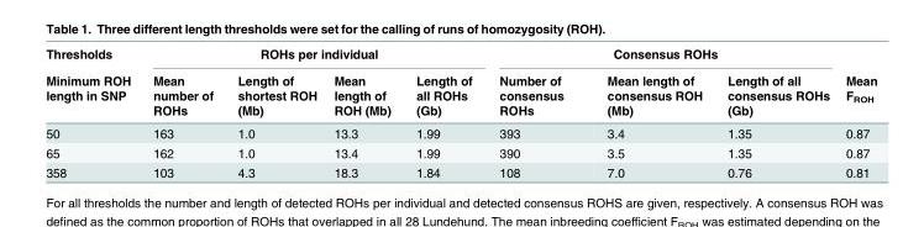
<table><thead><tr><td rowspan="2">Thresholds Minimum ROH length in SNP</td><td colspan="4">ROHs per individual</td><td colspan="3">Consensus ROHs</td><td rowspan="2">Mean F<sub>ROH</sub></td></tr><tr><td>Mean number of ROHs</td><td>Length of shortest ROH (Mb)</td><td>Mean length of ROH (Mb)</td><td>Length of all ROHs (Gb)</td><td>Number of consensus ROHs</td><td>Mean length of consensus ROH (Mb)</td><td>Length of all consensus ROHs (Gb)</td></tr></thead><tbody><tr><td>50</td><td>163</td><td>1.0</td><td>13.3</td><td>1.99</td><td>393</td><td>3.4</td><td>1.35</td><td>0.87</td></tr><tr><td>65</td><td>162</td><td>1.0</td><td>13.4</td><td>1.99</td><td>390</td><td>3.5</td><td>1.35</td><td>0.87</td></tr><tr><td>358</td><td>103</td><td>4.3</td><td>18.3</td><td>1.84</td><td>108</td><td>7.0</td><td>0.76</td><td>0.81</td></tr></tbody></table>